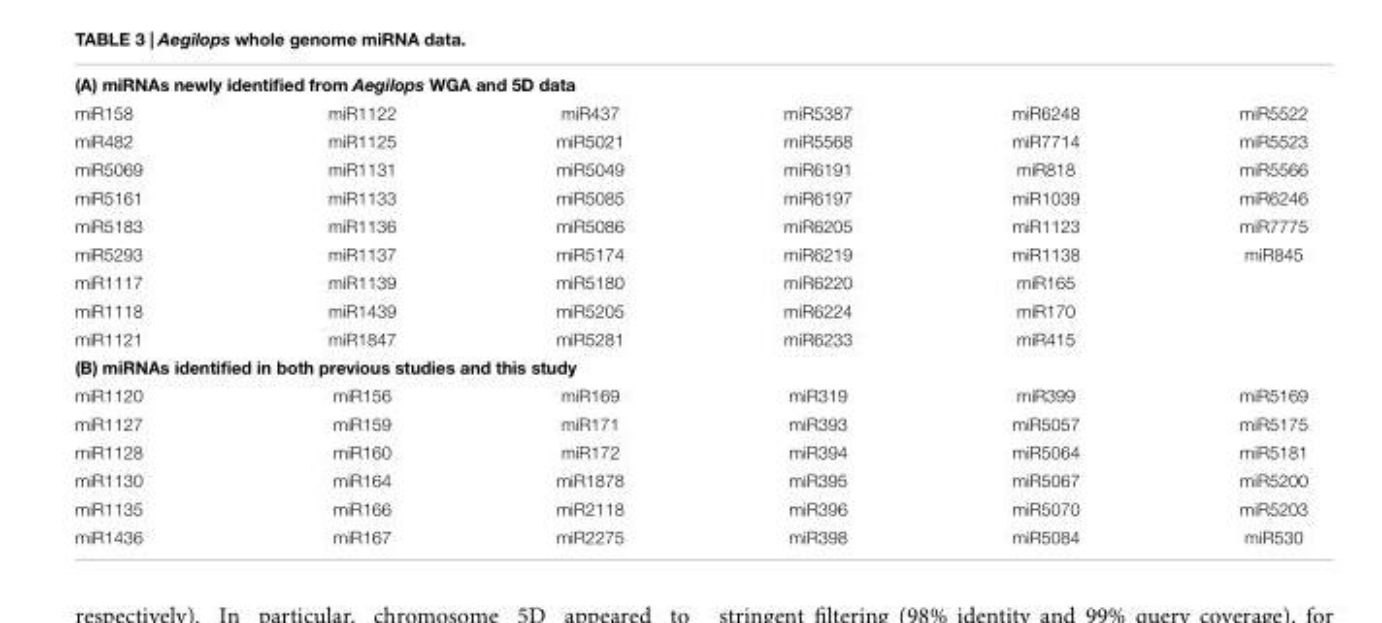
<table><tbody><tr><td colspan="6">(A) miRNAs newly identified from Aegilops WGA and 5D data</td></tr><tr><td>miR158</td><td>miR1122</td><td>miR437</td><td>miR5387</td><td>miR6248</td><td>miR5522</td></tr><tr><td>miR482</td><td>miR1125</td><td>miR5021</td><td>miR5568</td><td>miR7714</td><td>miR5523</td></tr><tr><td>miR5069</td><td>miR1131</td><td>miR5049</td><td>miR6191</td><td>miR818</td><td>miR5566</td></tr><tr><td>miR5161</td><td>miR1133</td><td>miR5085</td><td>miR6197</td><td>miR1039</td><td>miR6246</td></tr><tr><td>miR5183</td><td>miR1136</td><td>miR5086</td><td>miR6205</td><td>miR1123</td><td>miR7775</td></tr><tr><td>miR5293</td><td>miR1137</td><td>miR5174</td><td>miR6219</td><td>miR1138</td><td>miR845</td></tr><tr><td>miR1117</td><td>miR1139</td><td>miR5180</td><td>miR6220</td><td>miR165</td><td></td></tr><tr><td>miR1118</td><td>miR1439</td><td>miR5205</td><td>miR6224</td><td>miR170</td><td></td></tr><tr><td>miR1121</td><td>miR1847</td><td>miR5281</td><td>miR6233</td><td>miR415</td><td></td></tr><tr><td colspan="6">(B) miRNAs identified in both previous studies and this study</td></tr><tr><td>miR1120</td><td>miR156</td><td>miR169</td><td>miR319</td><td>miR399</td><td>miR5169</td></tr><tr><td>miR1127</td><td>miR159</td><td>miR171</td><td>miR393</td><td>miR5057</td><td>miR5175</td></tr><tr><td>miR1128</td><td>miR160</td><td>miR172</td><td>miR394</td><td>miR5064</td><td>miR5181</td></tr><tr><td>miR1130</td><td>miR164</td><td>miR1878</td><td>miR395</td><td>miR5067</td><td>miR5200</td></tr><tr><td>miR1135</td><td>miR166</td><td>miR2118</td><td>miR396</td><td>miR5070</td><td>miR5203</td></tr><tr><td>miR1436</td><td>miR167</td><td>miR2275</td><td>miR398</td><td>miR5084</td><td>miR530</td></tr></tbody></table>